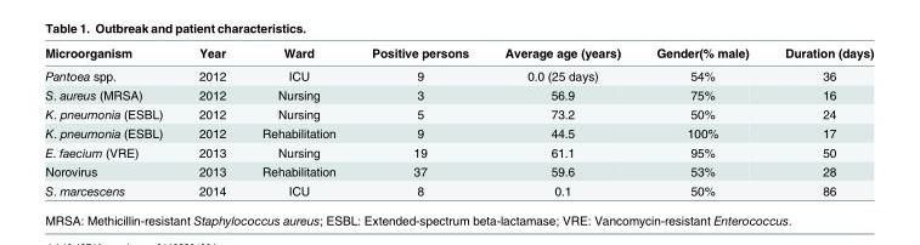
<table><thead><tr><td>Microorganism</td><td>Year</td><td>Ward</td><td>Positive persons</td><td>Average age (years)</td><td>Gender(% male)</td><td>Duration (days)</td></tr></thead><tbody><tr><td>Pantoea spp.</td><td>2012</td><td>ICU</td><td>9</td><td>0.0 (25 days)</td><td>54%</td><td>36</td></tr><tr><td>S. aureus (MRSA)</td><td>2012</td><td>Nursing</td><td>3</td><td>56.9</td><td>75%</td><td>16</td></tr><tr><td>K. pneumonia (ESBL)</td><td>2012</td><td>Nursing</td><td>5</td><td>73.2</td><td>50%</td><td>24</td></tr><tr><td>K. pneumonia (ESBL)</td><td>2012</td><td>Rehabilitation</td><td>9</td><td>44.5</td><td>100%</td><td>17</td></tr><tr><td>E. faecium (VRE)</td><td>2013</td><td>Nursing</td><td>19</td><td>61.1</td><td>95%</td><td>50</td></tr><tr><td>Norovirus</td><td>2013</td><td>Rehabilitation</td><td>37</td><td>59.6</td><td>53%</td><td>28</td></tr><tr><td>S. marcescens</td><td>2014</td><td>ICU</td><td>8</td><td>0.1</td><td>50%</td><td>86</td></tr></tbody></table>